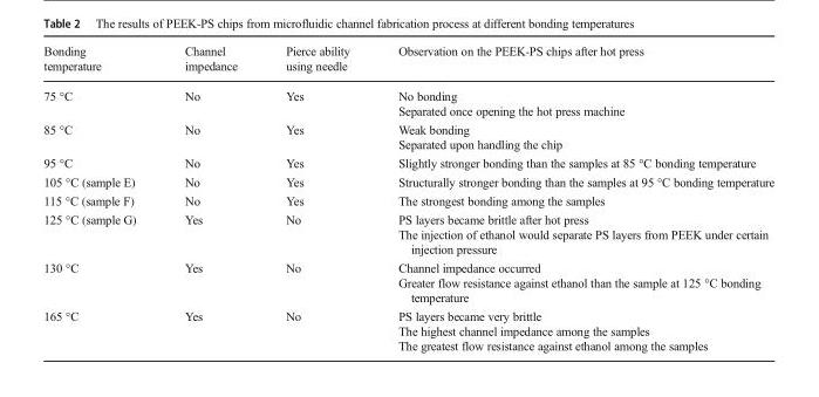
<table><thead><tr><td>Bonding temperature</td><td>Channel impedance</td><td>Pierce ability using needle</td><td>Observation on the PEEK-PS chips after hot press</td></tr></thead><tbody><tr><td>75 °C</td><td>No</td><td>Yes</td><td>No bonding Separated once opening the hot press machine</td></tr><tr><td>85 °C</td><td>No</td><td>Yes</td><td>Weak bonding Separated upon handling the chip</td></tr><tr><td>95 °C</td><td>No</td><td>Yes</td><td>Slightly stronger bonding than the samples at 85 °C bonding temperature</td></tr><tr><td>105 °C (sample E)</td><td>No</td><td>Yes</td><td>Structurally stronger bonding than the samples at 95 °C bonding temperature</td></tr><tr><td>115 °C (sample F)</td><td>No</td><td>Yes</td><td>The strongest bonding among the samples</td></tr><tr><td>125 °C (sample G)</td><td>Yes</td><td>No</td><td>PS layers became brittle after hot press The injection of ethanol would separate PS layers from PEEK under certain injection pressure</td></tr><tr><td>130 °C</td><td>Yes</td><td>No</td><td>Channel impedance occurred Greater flow resistance against ethanol than the sample at 125 °C bonding temperature</td></tr><tr><td>165 °C</td><td>Yes</td><td>No</td><td>PS layers became very brittle The highest channel impedance among the samples The greatest flow resistance against ethanol among the samples</td></tr></tbody></table>